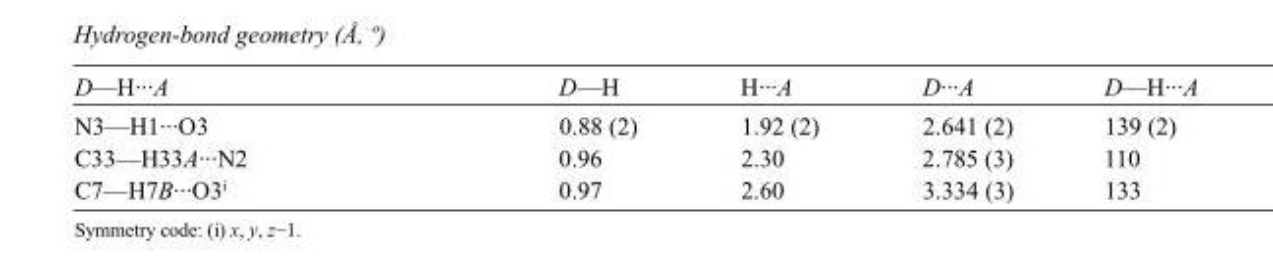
<table><tbody><tr><td>D—H···A</td><td>D—H</td><td>H···A</td><td>D···A</td><td>D—H···A</td></tr><tr><td>N3—H1···O3</td><td>0.88 (2)</td><td>1.92 (2)</td><td>2.641 (2)</td><td>139 (2)</td></tr><tr><td>C33—H33A···N2</td><td>0.96</td><td>2.30</td><td>2.785 (3)</td><td>110</td></tr><tr><td>C7—H7B···O3<sup>i</sup></td><td>0.97</td><td>2.60</td><td>3.334 (3)</td><td>133</td></tr></tbody></table>